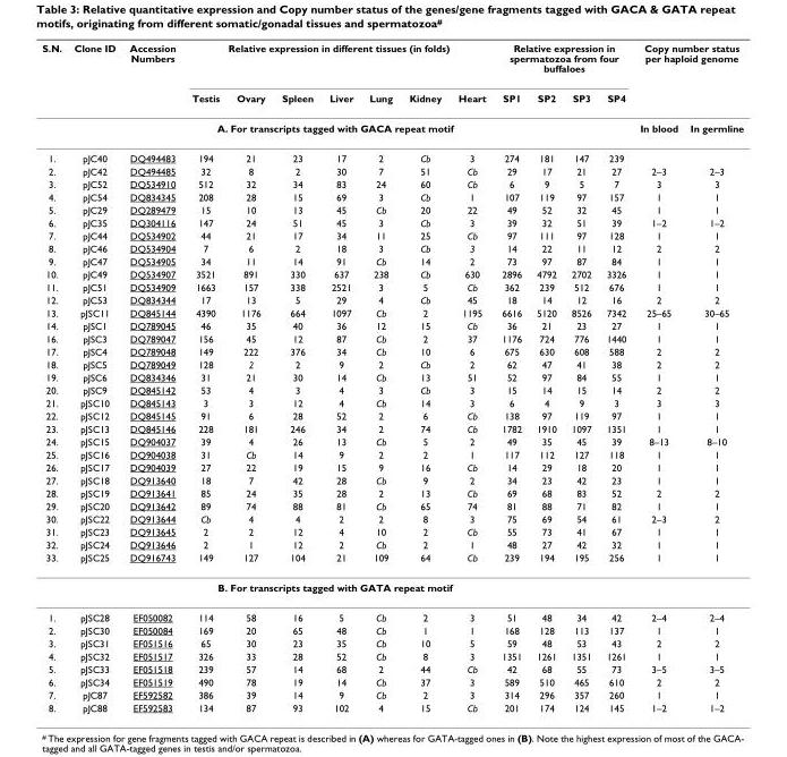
<table><thead><tr><td rowspan="2">S.N.</td><td rowspan="2">Clone ID</td><td rowspan="2">Accession Numbers</td><td colspan="7">Relative expression in different tissues (in folds)</td><td colspan="4">Relative expression in spermatozoa from four buffaloes</td><td colspan="2">Copy number status per haploid genome</td></tr><tr><td>Testis</td><td>Ovary</td><td>Spleen</td><td>Liver</td><td>Lung</td><td>Kidney</td><td>Heart</td><td>SP1</td><td>SP2</td><td>SP3</td><td>SP4</td><td></td><td></td></tr></thead><tbody><tr><td colspan="14">A. For transcripts tagged with GACA repeat motif</td><td>In blood</td><td>In germline</td></tr><tr><td>1.</td><td>pJC40</td><td>DQ494483</td><td>194</td><td>21</td><td>23</td><td>17</td><td>2</td><td>Cb</td><td>3</td><td>274</td><td>181</td><td>147</td><td>239</td><td></td><td></td></tr><tr><td>2.</td><td>pJC42</td><td>DQ494485</td><td>32</td><td>8</td><td>2</td><td>30</td><td>7</td><td>51</td><td>Cb</td><td>29</td><td>17</td><td>21</td><td>27</td><td>2–3</td><td>2–3</td></tr><tr><td>3.</td><td>pJC52</td><td>DQ534910</td><td>512</td><td>32</td><td>34</td><td>83</td><td>24</td><td>60</td><td>Cb</td><td>6</td><td>9</td><td>5</td><td>7</td><td>3</td><td>3</td></tr><tr><td>4.</td><td>pJC54</td><td>DQ834345</td><td>208</td><td>28</td><td>15</td><td>69</td><td>3</td><td>Cb</td><td>1</td><td>107</td><td>119</td><td>97</td><td>157</td><td>1</td><td>1</td></tr><tr><td>5.</td><td>pJC29</td><td>DQ289479</td><td>15</td><td>10</td><td>13</td><td>45</td><td>Cb</td><td>20</td><td>22</td><td>49</td><td>52</td><td>32</td><td>45</td><td>1</td><td>1</td></tr><tr><td>6.</td><td>pJC35</td><td>DQ304116</td><td>147</td><td>24</td><td>51</td><td>45</td><td>3</td><td>Cb</td><td>3</td><td>39</td><td>32</td><td>51</td><td>39</td><td>1–2</td><td>1–2</td></tr><tr><td>7.</td><td>pJC44</td><td>DQ534902</td><td>44</td><td>21</td><td>17</td><td>34</td><td>11</td><td>25</td><td>Cb</td><td>97</td><td>111</td><td>97</td><td>128</td><td>1</td><td>1</td></tr><tr><td>8.</td><td>pJC46</td><td>DQ534904</td><td>7</td><td>6</td><td>2</td><td>18</td><td>3</td><td>Cb</td><td>3</td><td>14</td><td>22</td><td>11</td><td>12</td><td>2</td><td>2</td></tr><tr><td>9.</td><td>pJC47</td><td>DQ534905</td><td>34</td><td>11</td><td>14</td><td>91</td><td>Cb</td><td>14</td><td>2</td><td>73</td><td>97</td><td>87</td><td>84</td><td>1</td><td>1</td></tr><tr><td>10.</td><td>pJC49</td><td>DQ534907</td><td>3521</td><td>891</td><td>330</td><td>637</td><td>238</td><td>Cb</td><td>630</td><td>2896</td><td>4792</td><td>2702</td><td>3326</td><td>1</td><td>1</td></tr><tr><td>11.</td><td>pJC51</td><td>DQ534909</td><td>1663</td><td>157</td><td>338</td><td>2521</td><td>3</td><td>5</td><td>Cb</td><td>362</td><td>239</td><td>512</td><td>676</td><td>1</td><td>1</td></tr><tr><td>12.</td><td>pJC53</td><td>DQ834344</td><td>17</td><td>13</td><td>5</td><td>29</td><td>4</td><td>Cb</td><td>45</td><td>18</td><td>14</td><td>12</td><td>16</td><td>2</td><td>2</td></tr><tr><td>13.</td><td>pJSC11</td><td>DQ845144</td><td>4390</td><td>1176</td><td>664</td><td>1097</td><td>Cb</td><td>2</td><td>1195</td><td>6616</td><td>5120</td><td>8526</td><td>7342</td><td>25–65</td><td>30–65</td></tr><tr><td>14.</td><td>pJSC1</td><td>DQ789045</td><td>46</td><td>35</td><td>40</td><td>36</td><td>12</td><td>15</td><td>Cb</td><td>36</td><td>21</td><td>23</td><td>27</td><td>1</td><td>1</td></tr><tr><td>16.</td><td>pJSC3</td><td>DQ789047</td><td>156</td><td>45</td><td>12</td><td>87</td><td>Cb</td><td>2</td><td>37</td><td>1176</td><td>724</td><td>776</td><td>1440</td><td>1</td><td>1</td></tr><tr><td>17.</td><td>pJSC4</td><td>DQ789048</td><td>149</td><td>222</td><td>376</td><td>34</td><td>Cb</td><td>10</td><td>6</td><td>675</td><td>630</td><td>608</td><td>588</td><td>2</td><td>2</td></tr><tr><td>18.</td><td>pJSC5</td><td>DQ789049</td><td>128</td><td>2</td><td>2</td><td>9</td><td>2</td><td>Cb</td><td>2</td><td>62</td><td>47</td><td>41</td><td>38</td><td>2</td><td>2</td></tr><tr><td>19.</td><td>pJSC6</td><td>DQ834346</td><td>31</td><td>21</td><td>30</td><td>14</td><td>Cb</td><td>13</td><td>51</td><td>52</td><td>97</td><td>84</td><td>55</td><td>1</td><td>1</td></tr><tr><td>20.</td><td>pJSC9</td><td>DQ845142</td><td>53</td><td>4</td><td>3</td><td>4</td><td>3</td><td>Cb</td><td>3</td><td>15</td><td>14</td><td>15</td><td>14</td><td>2</td><td>2</td></tr><tr><td>21.</td><td>pJSC10</td><td>DQ845143</td><td>3</td><td>3</td><td>12</td><td>4</td><td>Cb</td><td>14</td><td>3</td><td>6</td><td>4</td><td>9</td><td>3</td><td>3</td><td>3</td></tr><tr><td>22.</td><td>pJSC12</td><td>DQ845145</td><td>91</td><td>6</td><td>28</td><td>52</td><td>2</td><td>6</td><td>Cb</td><td>138</td><td>97</td><td>119</td><td>97</td><td>1</td><td>1</td></tr><tr><td>23.</td><td>pJSC13</td><td>DQ845146</td><td>228</td><td>181</td><td>246</td><td>34</td><td>2</td><td>74</td><td>Cb</td><td>1782</td><td>1910</td><td>1097</td><td>1351</td><td>1</td><td>1</td></tr><tr><td>24.</td><td>pJSC15</td><td>DQ904037</td><td>39</td><td>4</td><td>26</td><td>13</td><td>Cb</td><td>5</td><td>2</td><td>49</td><td>35</td><td>45</td><td>39</td><td>8–13</td><td>8–10</td></tr><tr><td>25.</td><td>pJSC16</td><td>DQ904038</td><td>31</td><td>Cb</td><td>14</td><td>9</td><td>2</td><td>2</td><td>1</td><td>117</td><td>112</td><td>127</td><td>118</td><td>1</td><td>1</td></tr><tr><td>26.</td><td>pJSC17</td><td>DQ904039</td><td>27</td><td>22</td><td>19</td><td>15</td><td>9</td><td>16</td><td>Cb</td><td>14</td><td>29</td><td>18</td><td>20</td><td>1</td><td>1</td></tr><tr><td>27.</td><td>pJSC18</td><td>DQ913640</td><td>18</td><td>7</td><td>42</td><td>28</td><td>Cb</td><td>9</td><td>2</td><td>34</td><td>23</td><td>42</td><td>23</td><td>1</td><td>1</td></tr><tr><td>28.</td><td>pJSC19</td><td>DQ913641</td><td>85</td><td>24</td><td>35</td><td>28</td><td>2</td><td>13</td><td>Cb</td><td>69</td><td>68</td><td>83</td><td>52</td><td>2</td><td>2</td></tr><tr><td>29.</td><td>pJSC20</td><td>DQ913642</td><td>89</td><td>74</td><td>88</td><td>81</td><td>Cb</td><td>65</td><td>74</td><td>81</td><td>88</td><td>71</td><td>82</td><td>1</td><td>1</td></tr><tr><td>30.</td><td>pJSC22</td><td>DQ913644</td><td>Cb</td><td>4</td><td>4</td><td>2</td><td>2</td><td>8</td><td>3</td><td>75</td><td>69</td><td>54</td><td>61</td><td>2–3</td><td>2</td></tr><tr><td>31.</td><td>pJSC23</td><td>DQ913645</td><td>2</td><td>2</td><td>12</td><td>4</td><td>10</td><td>2</td><td>Cb</td><td>55</td><td>73</td><td>41</td><td>67</td><td>1</td><td>1</td></tr><tr><td>32.</td><td>pJSC24</td><td>DQ913646</td><td>2</td><td>1</td><td>12</td><td>2</td><td>Cb</td><td>2</td><td>1</td><td>48</td><td>27</td><td>42</td><td>32</td><td>1</td><td>1</td></tr><tr><td>33.</td><td>pJSC25</td><td>DQ916743</td><td>149</td><td>127</td><td>104</td><td>21</td><td>109</td><td>64</td><td>Cb</td><td>239</td><td>194</td><td>195</td><td>256</td><td>1</td><td>1</td></tr><tr><td colspan="16">B. For transcripts tagged with GATA repeat motif</td></tr><tr><td>1.</td><td>pJSC28</td><td>EF050082</td><td>114</td><td>58</td><td>16</td><td>5</td><td>Cb</td><td>2</td><td>3</td><td>51</td><td>48</td><td>34</td><td>42</td><td>2–4</td><td>2–4</td></tr><tr><td>2.</td><td>pJSC30</td><td>EF050084</td><td>169</td><td>20</td><td>65</td><td>48</td><td>Cb</td><td>1</td><td>1</td><td>168</td><td>128</td><td>113</td><td>137</td><td>1</td><td>1</td></tr><tr><td>3.</td><td>pJSC31</td><td>EF051516</td><td>65</td><td>30</td><td>23</td><td>35</td><td>Cb</td><td>10</td><td>5</td><td>59</td><td>48</td><td>53</td><td>43</td><td>2</td><td>2</td></tr><tr><td>4.</td><td>pJSC32</td><td>EF051517</td><td>326</td><td>33</td><td>28</td><td>52</td><td>Cb</td><td>8</td><td>3</td><td>1351</td><td>1261</td><td>1351</td><td>1261</td><td>1</td><td>1</td></tr><tr><td>5.</td><td>pJSC33</td><td>EF051518</td><td>239</td><td>57</td><td>14</td><td>68</td><td>2</td><td>44</td><td>Cb</td><td>42</td><td>68</td><td>55</td><td>73</td><td>3–5</td><td>3–5</td></tr><tr><td>6.</td><td>pJSC34</td><td>EF051519</td><td>490</td><td>78</td><td>19</td><td>14</td><td>Cb</td><td>37</td><td>3</td><td>589</td><td>510</td><td>465</td><td>610</td><td>2</td><td>2</td></tr><tr><td>7.</td><td>pJC87</td><td>EF592582</td><td>386</td><td>39</td><td>14</td><td>9</td><td>Cb</td><td>2</td><td>3</td><td>314</td><td>296</td><td>357</td><td>260</td><td>1</td><td>1</td></tr><tr><td>8.</td><td>pJC88</td><td>EF592583</td><td>134</td><td>87</td><td>93</td><td>102</td><td>4</td><td>15</td><td>Cb</td><td>201</td><td>174</td><td>124</td><td>145</td><td>1–2</td><td>1–2</td></tr></tbody></table>